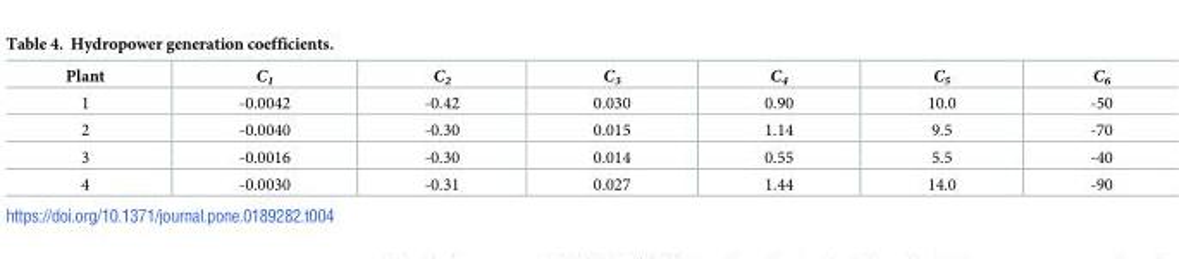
<table><thead><tr><td>Plant</td><td>C<sub>1</sub></td><td>C<sub>2</sub></td><td>C<sub>3</sub></td><td>C<sub>4</sub></td><td>C<sub>5</sub></td><td>C<sub>6</sub></td></tr></thead><tbody><tr><td>1</td><td>-0.0042</td><td>-0.42</td><td>0.030</td><td>0.90</td><td>10.0</td><td>-50</td></tr><tr><td>2</td><td>-0.0040</td><td>-0.30</td><td>0.015</td><td>1.14</td><td>9.5</td><td>-70</td></tr><tr><td>3</td><td>-0.0016</td><td>-0.30</td><td>0.014</td><td>0.55</td><td>5.5</td><td>-40</td></tr><tr><td>4</td><td>-0.0030</td><td>-0.31</td><td>0.027</td><td>1.44</td><td>14.0</td><td>-90</td></tr></tbody></table>